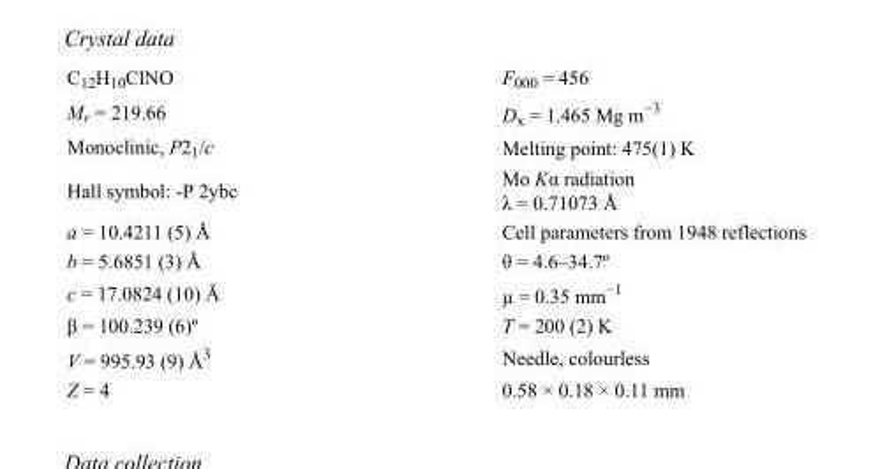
<table><tbody><tr><td>C<sub>12</sub>H<sub>10</sub>ClNO</td><td>F<sub>000</sub> = 456</td></tr><tr><td>M<sub>r</sub> = 219.66</td><td>D<sub>x</sub> = 1.465 Mg m<sup>−3</sup></td></tr><tr><td>Monoclinic, P2<sub>1</sub>/c</td><td>Melting point: 475(1) K</td></tr><tr><td>Hall symbol: -P 2ybc</td><td>Mo Kα radiation λ = 0.71073 Å</td></tr><tr><td>a = 10.4211 (5) Å</td><td>Cell parameters from 1948 reflections</td></tr><tr><td>b = 5.6851 (3) Å</td><td>θ = 4.6–34.7º</td></tr><tr><td>c = 17.0824 (10) Å</td><td>µ = 0.35 mm<sup>−1</sup></td></tr><tr><td>β = 100.239 (6)º</td><td>T = 200 (2) K</td></tr><tr><td>V = 995.93 (9) Å<sup>3</sup></td><td>Needle, colourless</td></tr><tr><td>Z = 4</td><td>0.58 × 0.18 × 0.11 mm</td></tr></tbody></table>